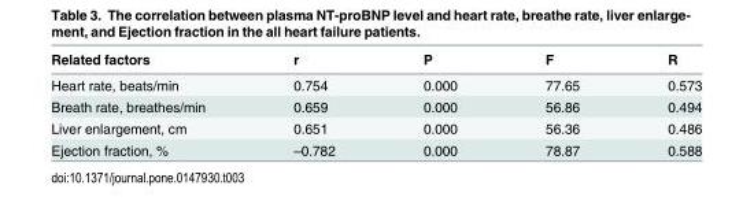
<table><thead><tr><td>Related factors</td><td>r</td><td>P</td><td>F</td><td>R</td></tr></thead><tbody><tr><td>Heart rate, beats/min</td><td>0.754</td><td>0.000</td><td>77.65</td><td>0.573</td></tr><tr><td>Breath rate, breathes/min</td><td>0.659</td><td>0.000</td><td>56.86</td><td>0.494</td></tr><tr><td>Liver enlargement, cm</td><td>0.651</td><td>0.000</td><td>56.36</td><td>0.486</td></tr><tr><td>Ejection fraction, %</td><td>–0.782</td><td>0.000</td><td>78.87</td><td>0.588</td></tr></tbody></table>